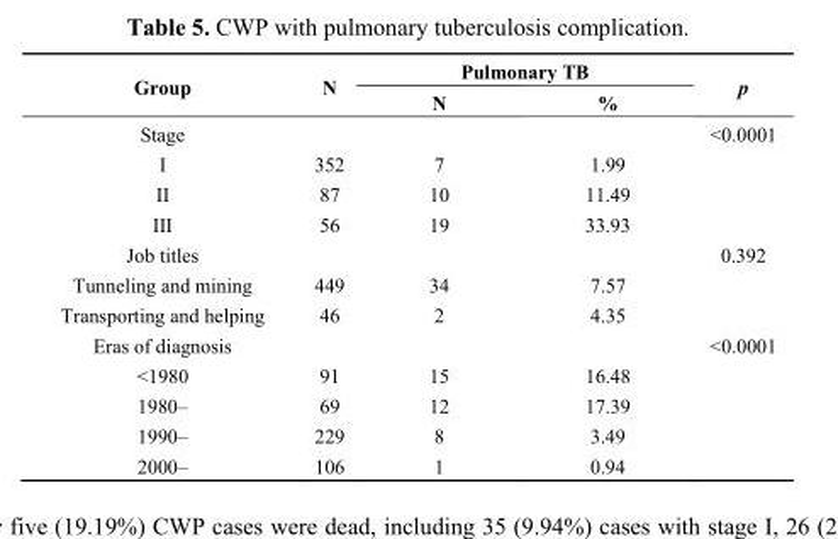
<table><thead><tr><td rowspan="2">Group</td><td rowspan="2">N</td><td colspan="2">Pulmonary TB</td><td rowspan="2">p</td></tr><tr><td>N</td><td>%</td></tr></thead><tbody><tr><td>Stage</td><td></td><td></td><td></td><td>&lt;0.0001</td></tr><tr><td>I</td><td>352</td><td>7</td><td>1.99</td><td></td></tr><tr><td>II</td><td>87</td><td>10</td><td>11.49</td><td></td></tr><tr><td>III</td><td>56</td><td>19</td><td>33.93</td><td></td></tr><tr><td>Job titles</td><td></td><td></td><td></td><td>0.392</td></tr><tr><td>Tunneling and mining</td><td>449</td><td>34</td><td>7.57</td><td></td></tr><tr><td>Transporting and helping</td><td>46</td><td>2</td><td>4.35</td><td></td></tr><tr><td>Eras of diagnosis</td><td></td><td></td><td></td><td>&lt;0.0001</td></tr><tr><td>&lt;1980</td><td>91</td><td>15</td><td>16.48</td><td></td></tr><tr><td>1980–</td><td>69</td><td>12</td><td>17.39</td><td></td></tr><tr><td>1990–</td><td>229</td><td>8</td><td>3.49</td><td></td></tr><tr><td>2000–</td><td>106</td><td>1</td><td>0.94</td><td></td></tr></tbody></table>